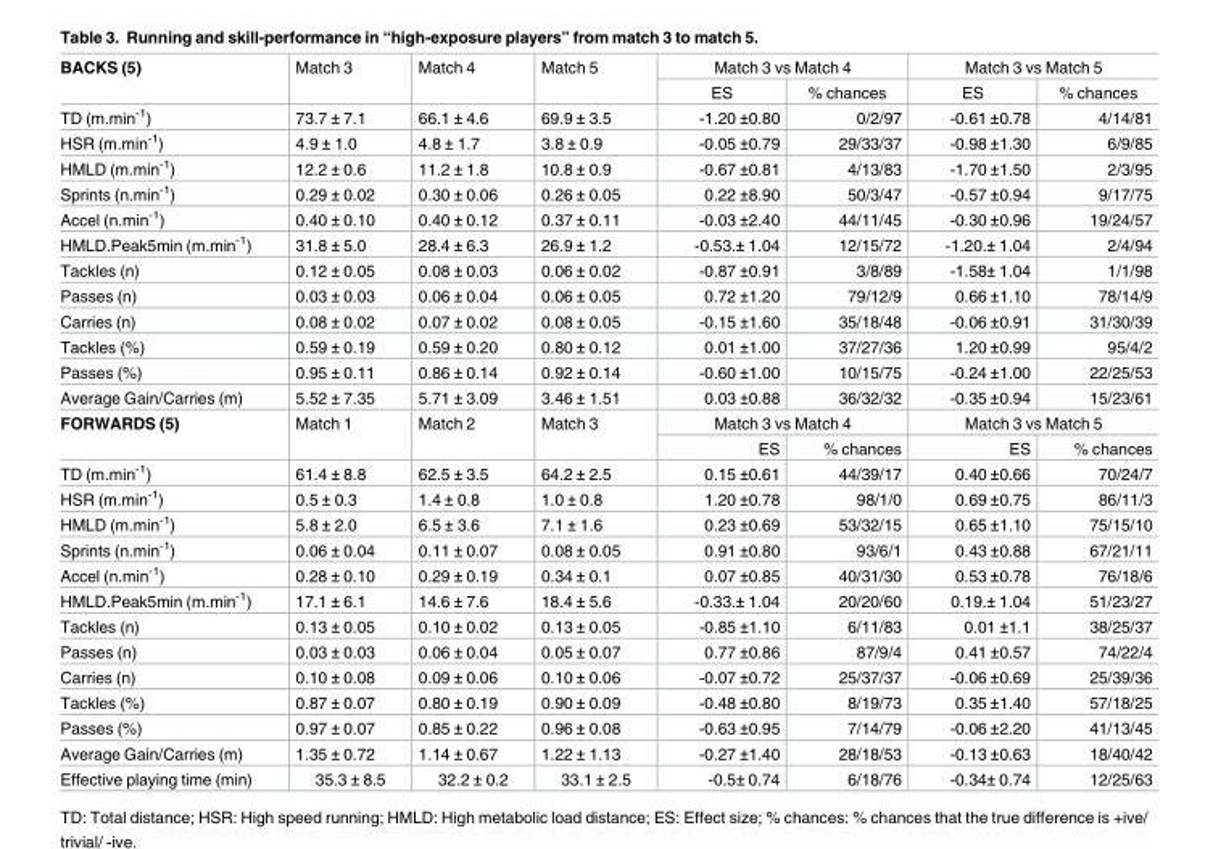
<table><tbody><tr><td rowspan="2">BACKS (5)</td><td rowspan="2">Match 3</td><td rowspan="2">Match 4</td><td rowspan="2">Match 5</td><td colspan="2">Match 3 vs Match 4</td><td colspan="2">Match 3 vs Match 5</td></tr><tr><td>ES</td><td>% chances</td><td>ES</td><td>% chances</td></tr><tr><td>TD (m.min<sup>-1</sup>)</td><td>73.7 ± 7.1</td><td>66.1 ± 4.6</td><td>69.9 ± 3.5</td><td>-1.20 ±0.80</td><td>0/2/97</td><td>-0.61 ±0.78</td><td>4/14/81</td></tr><tr><td>HSR (m.min<sup>-1</sup>)</td><td>4.9 ± 1.0</td><td>4.8 ± 1.7</td><td>3.8 ± 0.9</td><td>-0.05 ±0.79</td><td>29/33/37</td><td>-0.98 ±1.30</td><td>6/9/85</td></tr><tr><td>HMLD (m.min<sup>-1</sup>)</td><td>12.2 ± 0.6</td><td>11.2 ± 1.8</td><td>10.8 ± 0.9</td><td>-0.67 ±0.81</td><td>4/13/83</td><td>-1.70 ±1.50</td><td>2/3/95</td></tr><tr><td>Sprints (n.min<sup>-1</sup>)</td><td>0.29 ± 0.02</td><td>0.30 ± 0.06</td><td>0.26 ± 0.05</td><td>0.22 ±8.90</td><td>50/3/47</td><td>-0.57 ±0.94</td><td>9/17/75</td></tr><tr><td>Accel (n.min<sup>-1</sup>)</td><td>0.40 ± 0.10</td><td>0.40 ± 0.12</td><td>0.37 ± 0.11</td><td>-0.03 ±2.40</td><td>44/11/45</td><td>-0.30 ±0.96</td><td>19/24/57</td></tr><tr><td>HMLD.Peak5min (m.min<sup>-1</sup>)</td><td>31.8 ± 5.0</td><td>28.4 ± 6.3</td><td>26.9 ± 1.2</td><td>-0.53.± 1.04</td><td>12/15/72</td><td>-1.20.± 1.04</td><td>2/4/94</td></tr><tr><td>Tackles (n)</td><td>0.12 ± 0.05</td><td>0.08 ± 0.03</td><td>0.06 ± 0.02</td><td>-0.87 ±0.91</td><td>3/8/89</td><td>-1.58± 1.04</td><td>1/1/98</td></tr><tr><td>Passes (n)</td><td>0.03 ± 0.03</td><td>0.06 ± 0.04</td><td>0.06 ± 0.05</td><td>0.72 ±1.20</td><td>79/12/9</td><td>0.66 ±1.10</td><td>78/14/9</td></tr><tr><td>Carries (n)</td><td>0.08 ± 0.02</td><td>0.07 ± 0.02</td><td>0.08 ± 0.05</td><td>-0.15 ±1.60</td><td>35/18/48</td><td>-0.06 ±0.91</td><td>31/30/39</td></tr><tr><td>Tackles (%)</td><td>0.59 ± 0.19</td><td>0.59 ± 0.20</td><td>0.80 ± 0.12</td><td>0.01 ±1.00</td><td>37/27/36</td><td>1.20 ±0.99</td><td>95/4/2</td></tr><tr><td>Passes (%)</td><td>0.95 ± 0.11</td><td>0.86 ± 0.14</td><td>0.92 ± 0.14</td><td>-0.60 ±1.00</td><td>10/15/75</td><td>-0.24 ±1.00</td><td>22/25/53</td></tr><tr><td>Average Gain/Carries (m)</td><td>5.52 ± 7.35</td><td>5.71 ± 3.09</td><td>3.46 ± 1.51</td><td>0.03 ±0.88</td><td>36/32/32</td><td>-0.35 ±0.94</td><td>15/23/61</td></tr><tr><td rowspan="2">FORWARDS (5)</td><td rowspan="2">Match 1</td><td rowspan="2">Match 2</td><td rowspan="2">Match 3</td><td colspan="2">Match 3 vs Match 4</td><td colspan="2">Match 3 vs Match 5</td></tr><tr><td>ES</td><td>% chances</td><td>ES</td><td>% chances</td></tr><tr><td>TD (m.min<sup>-1</sup>)</td><td>61.4 ± 8.8</td><td>62.5 ± 3.5</td><td>64.2 ± 2.5</td><td>0.15 ±0.61</td><td>44/39/17</td><td>0.40 ±0.66</td><td>70/24/7</td></tr><tr><td>HSR (m.min<sup>-1</sup>)</td><td>0.5 ± 0.3</td><td>1.4 ± 0.8</td><td>1.0 ± 0.8</td><td>1.20 ±0.78</td><td>98/1/0</td><td>0.69 ±0.75</td><td>86/11/3</td></tr><tr><td>HMLD (m.min<sup>-1</sup>)</td><td>5.8 ± 2.0</td><td>6.5 ± 3.6</td><td>7.1 ± 1.6</td><td>0.23 ±0.69</td><td>53/32/15</td><td>0.65 ±1.10</td><td>75/15/10</td></tr><tr><td>Sprints (n.min<sup>-1</sup>)</td><td>0.06 ± 0.04</td><td>0.11 ± 0.07</td><td>0.08 ± 0.05</td><td>0.91 ±0.80</td><td>93/6/1</td><td>0.43 ±0.88</td><td>67/21/11</td></tr><tr><td>Accel (n.min<sup>-1</sup>)</td><td>0.28 ± 0.10</td><td>0.29 ± 0.19</td><td>0.34 ± 0.1</td><td>0.07 ±0.85</td><td>40/31/30</td><td>0.53 ±0.78</td><td>76/18/6</td></tr><tr><td>HMLD.Peak5min (m.min<sup>-1</sup>)</td><td>17.1 ± 6.1</td><td>14.6 ± 7.6</td><td>18.4 ± 5.6</td><td>-0.33.± 1.04</td><td>20/20/60</td><td>0.19.± 1.04</td><td>51/23/27</td></tr><tr><td>Tackles (n)</td><td>0.13 ± 0.05</td><td>0.10 ± 0.02</td><td>0.13 ± 0.05</td><td>-0.85 ±1.10</td><td>6/11/83</td><td>0.01 ±1.1</td><td>38/25/37</td></tr><tr><td>Passes (n)</td><td>0.03 ± 0.03</td><td>0.06 ± 0.04</td><td>0.05 ± 0.07</td><td>0.77 ±0.86</td><td>87/9/4</td><td>0.41 ±0.57</td><td>74/22/4</td></tr><tr><td>Carries (n)</td><td>0.10 ± 0.08</td><td>0.09 ± 0.06</td><td>0.10 ± 0.06</td><td>-0.07 ±0.72</td><td>25/37/37</td><td>-0.06 ±0.69</td><td>25/39/36</td></tr><tr><td>Tackles (%)</td><td>0.87 ± 0.07</td><td>0.80 ± 0.19</td><td>0.90 ± 0.09</td><td>-0.48 ±0.80</td><td>8/19/73</td><td>0.35 ±1.40</td><td>57/18/25</td></tr><tr><td>Passes (%)</td><td>0.97 ± 0.07</td><td>0.85 ± 0.22</td><td>0.96 ± 0.08</td><td>-0.63 ±0.95</td><td>7/14/79</td><td>-0.06 ±2.20</td><td>41/13/45</td></tr><tr><td>Average Gain/Carries (m)</td><td>1.35 ± 0.72</td><td>1.14 ± 0.67</td><td>1.22 ± 1.13</td><td>-0.27 ±1.40</td><td>28/18/53</td><td>-0.13 ±0.63</td><td>18/40/42</td></tr><tr><td>Effective playing time (min)</td><td>35.3 ± 8.5</td><td>32.2 ± 0.2</td><td>33.1 ± 2.5</td><td>-0.5± 0.74</td><td>6/18/76</td><td>-0.34± 0.74</td><td>12/25/63</td></tr></tbody></table>